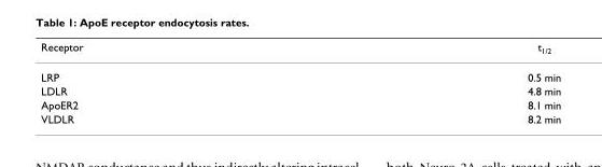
<table><thead><tr><td>Receptor</td><td>t<sub>1/2</sub></td></tr></thead><tbody><tr><td>LRP</td><td>0.5 min</td></tr><tr><td>LDLR</td><td>4.8 min</td></tr><tr><td>ApoER2</td><td>8.1 min</td></tr><tr><td>VLDLR</td><td>8.2 min</td></tr></tbody></table>